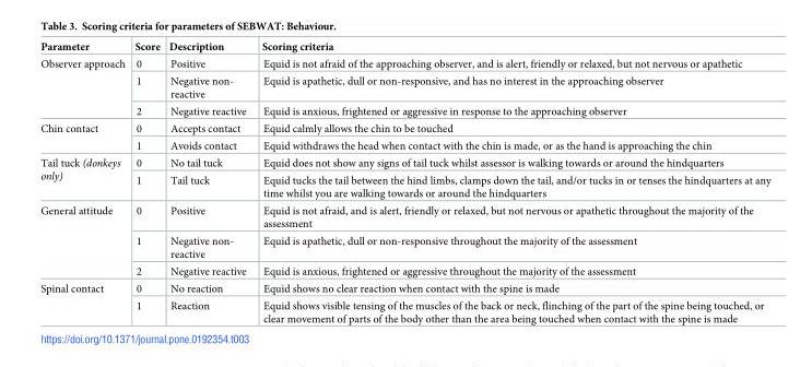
<table><thead><tr><td>Parameter</td><td>Score</td><td>Description</td><td>Scoring criteria</td></tr></thead><tbody><tr><td rowspan="3">Observer approach</td><td>0</td><td>Positive</td><td>Equid is not afraid of the approaching observer, and is alert, friendly or relaxed, but not nervous or apathetic</td></tr><tr><td>1</td><td>Negative non- reactive</td><td>Equid is apathetic, dull or non-responsive, and has no interest in the approaching observer</td></tr><tr><td>2</td><td>Negative reactive</td><td>Equid is anxious, frightened or aggressive in response to the approaching observer</td></tr><tr><td rowspan="2">Chin contact</td><td>0</td><td>Accepts contact</td><td>Equid calmly allows the chin to be touched</td></tr><tr><td>1</td><td>Avoids contact</td><td>Equid withdraws the head when contact with the chin is made, or as the hand is approaching the chin</td></tr><tr><td rowspan="2">Tail tuck (donkeys only)</td><td>0</td><td>No tail tuck</td><td>Equid does not show any signs of tail tuck whilst assessor is walking towards or around the hindquarters</td></tr><tr><td>1</td><td>Tail tuck</td><td>Equid tucks the tail between the hind limbs, clamps down the tail, and/or tucks in or tenses the hindquarters at any time whilst you are walking towards or around the hindquarters</td></tr><tr><td rowspan="3">General attitude</td><td>0</td><td>Positive</td><td>Equid is not afraid, and is alert, friendly or relaxed, but not nervous or apathetic throughout the majority of the assessment</td></tr><tr><td>1</td><td>Negative non- reactive</td><td>Equid is apathetic, dull or non-responsive throughout the majority of the assessment</td></tr><tr><td>2</td><td>Negative reactive</td><td>Equid is anxious, frightened or aggressive throughout the majority of the assessment</td></tr><tr><td rowspan="2">Spinal contact</td><td>0</td><td>No reaction</td><td>Equid shows no clear reaction when contact with the spine is made</td></tr><tr><td>1</td><td>Reaction</td><td>Equid shows visible tensing of the muscles of the back or neck, flinching of the part of the spine being touched, or clear movement of parts of the body other than the area being touched when contact with the spine is made</td></tr></tbody></table>